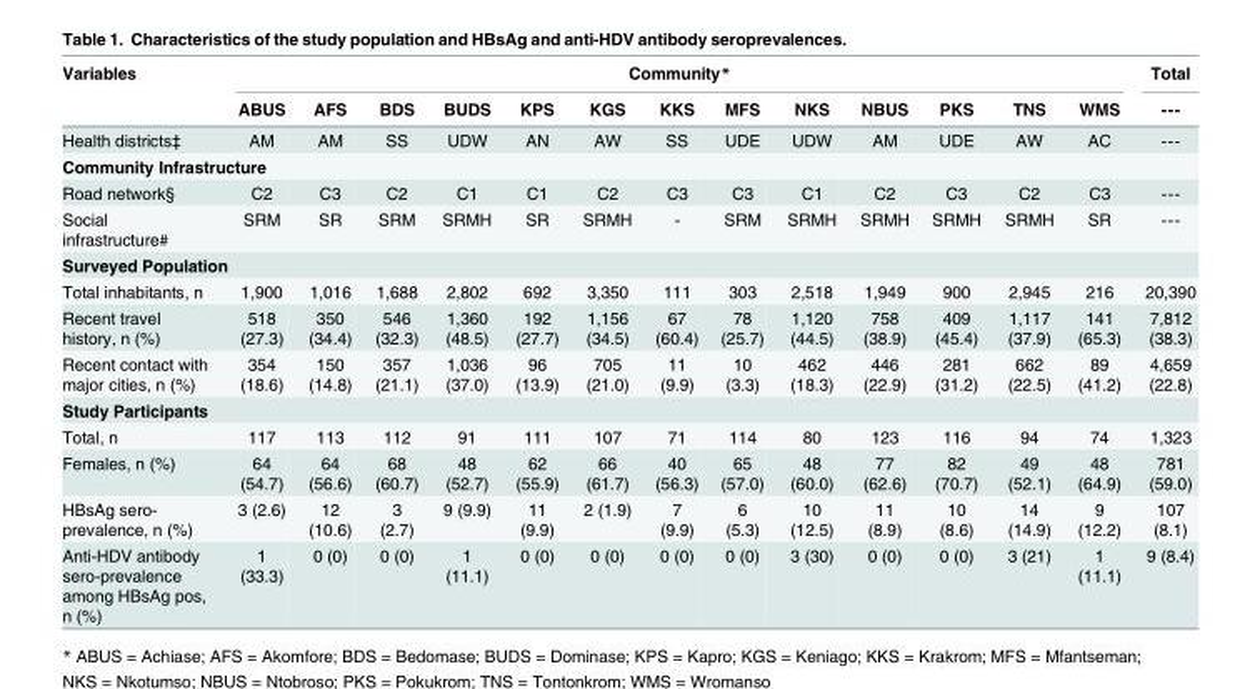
<table><thead><tr><td rowspan="2">Variables</td><td colspan="13">Community*</td><td rowspan="2">Total ---</td></tr><tr><td>ABUS</td><td>AFS</td><td>BDS</td><td>BUDS</td><td>KPS</td><td>KGS</td><td>KKS</td><td>MFS</td><td>NKS</td><td>NBUS</td><td>PKS</td><td>TNS</td><td>WMS</td></tr></thead><tbody><tr><td>Health districts‡</td><td>AM</td><td>AM</td><td>SS</td><td>UDW</td><td>AN</td><td>AW</td><td>SS</td><td>UDE</td><td>UDW</td><td>AM</td><td>UDE</td><td>AW</td><td>AC</td><td>---</td></tr><tr><td colspan="15">Community Infrastructure</td></tr><tr><td>Road network§</td><td>C2</td><td>C3</td><td>C2</td><td>C1</td><td>C1</td><td>C2</td><td>C3</td><td>C3</td><td>C1</td><td>C2</td><td>C3</td><td>C2</td><td>C3</td><td>---</td></tr><tr><td>Social infrastructure#</td><td>SRM</td><td>SR</td><td>SRM</td><td>SRMH</td><td>SR</td><td>SRMH</td><td>-</td><td>SRM</td><td>SRMH</td><td>SRMH</td><td>SRMH</td><td>SRMH</td><td>SR</td><td>---</td></tr><tr><td colspan="15">Surveyed Population</td></tr><tr><td>Total inhabitants, n</td><td>1,900</td><td>1,016</td><td>1,688</td><td>2,802</td><td>692</td><td>3,350</td><td>111</td><td>303</td><td>2,518</td><td>1,949</td><td>900</td><td>2,945</td><td>216</td><td>20,390</td></tr><tr><td>Recent travel history, n (%)</td><td>518 (27.3)</td><td>350 (34.4)</td><td>546 (32.3)</td><td>1,360 (48.5)</td><td>192 (27.7)</td><td>1,156 (34.5)</td><td>67 (60.4)</td><td>78 (25.7)</td><td>1,120 (44.5)</td><td>758 (38.9)</td><td>409 (45.4)</td><td>1,117 (37.9)</td><td>141 (65.3)</td><td>7,812 (38.3)</td></tr><tr><td>Recent contact with major cities, n (%)</td><td>354 (18.6)</td><td>150 (14.8)</td><td>357 (21.1)</td><td>1,036 (37.0)</td><td>96 (13.9)</td><td>705 (21.0)</td><td>11 (9.9)</td><td>10 (3.3)</td><td>462 (18.3)</td><td>446 (22.9)</td><td>281 (31.2)</td><td>662 (22.5)</td><td>89 (41.2)</td><td>4,659 (22.8)</td></tr><tr><td colspan="15">Study Participants</td></tr><tr><td>Total, n</td><td>117</td><td>113</td><td>112</td><td>91</td><td>111</td><td>107</td><td>71</td><td>114</td><td>80</td><td>123</td><td>116</td><td>94</td><td>74</td><td>1,323</td></tr><tr><td>Females, n (%)</td><td>64 (54.7)</td><td>64 (56.6)</td><td>68 (60.7)</td><td>48 (52.7)</td><td>62 (55.9)</td><td>66 (61.7)</td><td>40 (56.3)</td><td>65 (57.0)</td><td>48 (60.0)</td><td>77 (62.6)</td><td>82 (70.7)</td><td>49 (52.1)</td><td>48 (64.9)</td><td>781 (59.0)</td></tr><tr><td>HBsAg sero- prevalence, n (%)</td><td>3 (2.6)</td><td>12 (10.6)</td><td>3 (2.7)</td><td>9 (9.9)</td><td>11 (9.9)</td><td>2 (1.9)</td><td>7 (9.9)</td><td>6 (5.3)</td><td>10 (12.5)</td><td>11 (8.9)</td><td>10 (8.6)</td><td>14 (14.9)</td><td>9 (12.2)</td><td>107 (8.1)</td></tr><tr><td>Anti-HDV antibody sero-prevalence among HBsAg pos, n (%)</td><td>1 (33.3)</td><td>0 (0)</td><td>0 (0)</td><td>1 (11.1)</td><td>0 (0)</td><td>0 (0)</td><td>0 (0)</td><td>0 (0)</td><td>3 (30)</td><td>0 (0)</td><td>0 (0)</td><td>3 (21)</td><td>1 (11.1)</td><td>9 (8.4)</td></tr></tbody></table>